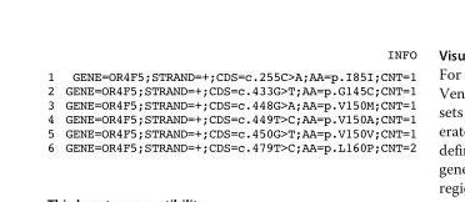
<table><tbody><tr><td colspan="2">INFO</td></tr><tr><td>1 2 3 4 5 6</td><td>GENE=OR4F5;STRAND=+;CDS=c.255C&gt;A;AA=p.I85I;CNT=1 GENE=OR4F5;STRAND=+;CDS=c.433G&gt;T;AA=p.G145C;CNT=1 GENE=OR4F5;STRAND=+;CDS=c.448G&gt;A;AA=p.V150M;CNT=1 GENE=OR4F5;STRAND=+;CDS=c.449T&gt;C;AA=p.V150A;CNT=1 GENE=OR4F5;STRAND=+;CDS=c.450G&gt;T;AA=p.V150V;CNT=1 GENE=OR4F5;STRAND=+;CDS=c.479T&gt;C;AA=p.L160P;CNT=2</td></tr></tbody></table>